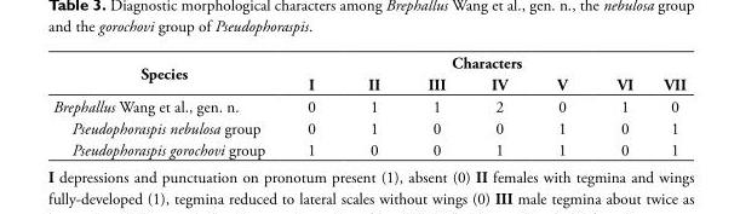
<table><thead><tr><td rowspan="2">Species</td><td colspan="7">Characters</td></tr><tr><td>I</td><td>II</td><td>III</td><td>IV</td><td>V</td><td>VI</td><td>VII</td></tr></thead><tbody><tr><td>Brephallus Wang et al., gen. n.</td><td>0</td><td>1</td><td>1</td><td>2</td><td>0</td><td>1</td><td>0</td></tr><tr><td>Pseudophoraspis nebulosa group</td><td>0</td><td>1</td><td>0</td><td>0</td><td>1</td><td>0</td><td>1</td></tr><tr><td>Pseudophoraspis gorochovi group</td><td>1</td><td>0</td><td>0</td><td>1</td><td>1</td><td>0</td><td>1</td></tr></tbody></table>